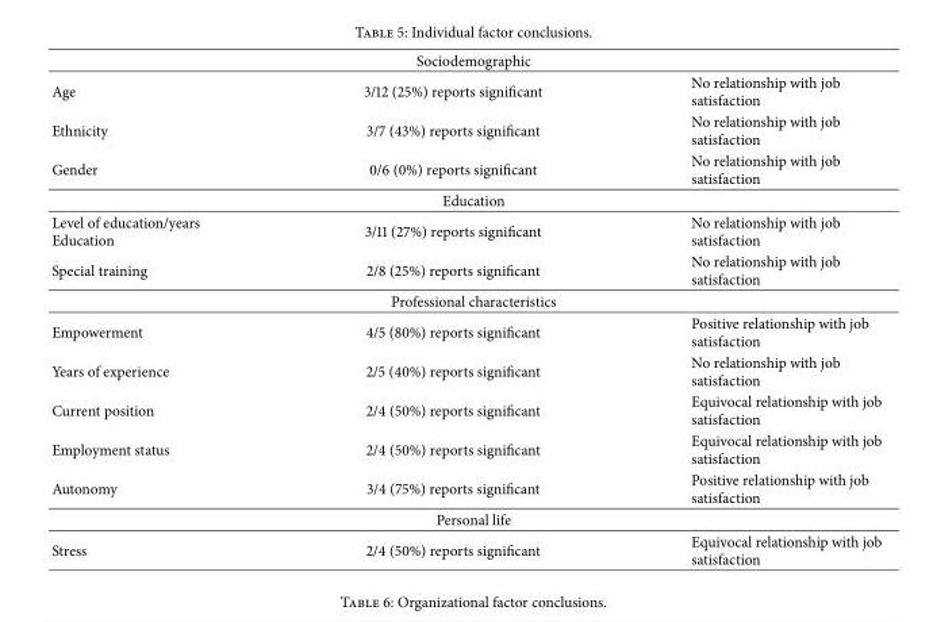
<table><tbody><tr><td colspan="3">Sociodemographic</td></tr><tr><td>Age</td><td>3/12 (25%) reports significant</td><td>No relationship with job satisfaction</td></tr><tr><td>Ethnicity</td><td>3/7 (43%) reports significant</td><td>No relationship with job satisfaction</td></tr><tr><td>Gender</td><td>0/6 (0%) reports significant</td><td>No relationship with job satisfaction</td></tr><tr><td colspan="3">Education</td></tr><tr><td>Level of education/years Education</td><td>3/11 (27%) reports significant</td><td>No relationship with job satisfaction</td></tr><tr><td>Special training</td><td>2/8 (25%) reports significant</td><td>No relationship with job satisfaction</td></tr><tr><td colspan="3">Professional characteristics</td></tr><tr><td>Empowerment</td><td>4/5 (80%) reports significant</td><td>Positive relationship with job satisfaction</td></tr><tr><td>Years of experience</td><td>2/5 (40%) reports significant</td><td>No relationship with job satisfaction</td></tr><tr><td>Current position</td><td>2/4 (50%) reports significant</td><td>Equivocal relationship with job satisfaction</td></tr><tr><td>Employment status</td><td>2/4 (50%) reports significant</td><td>Equivocal relationship with job satisfaction</td></tr><tr><td>Autonomy</td><td>3/4 (75%) reports significant</td><td>Positive relationship with job satisfaction</td></tr><tr><td colspan="3">Personal life</td></tr><tr><td>Stress</td><td>2/4 (50%) reports significant</td><td>Equivocal relationship with job satisfaction</td></tr></tbody></table>